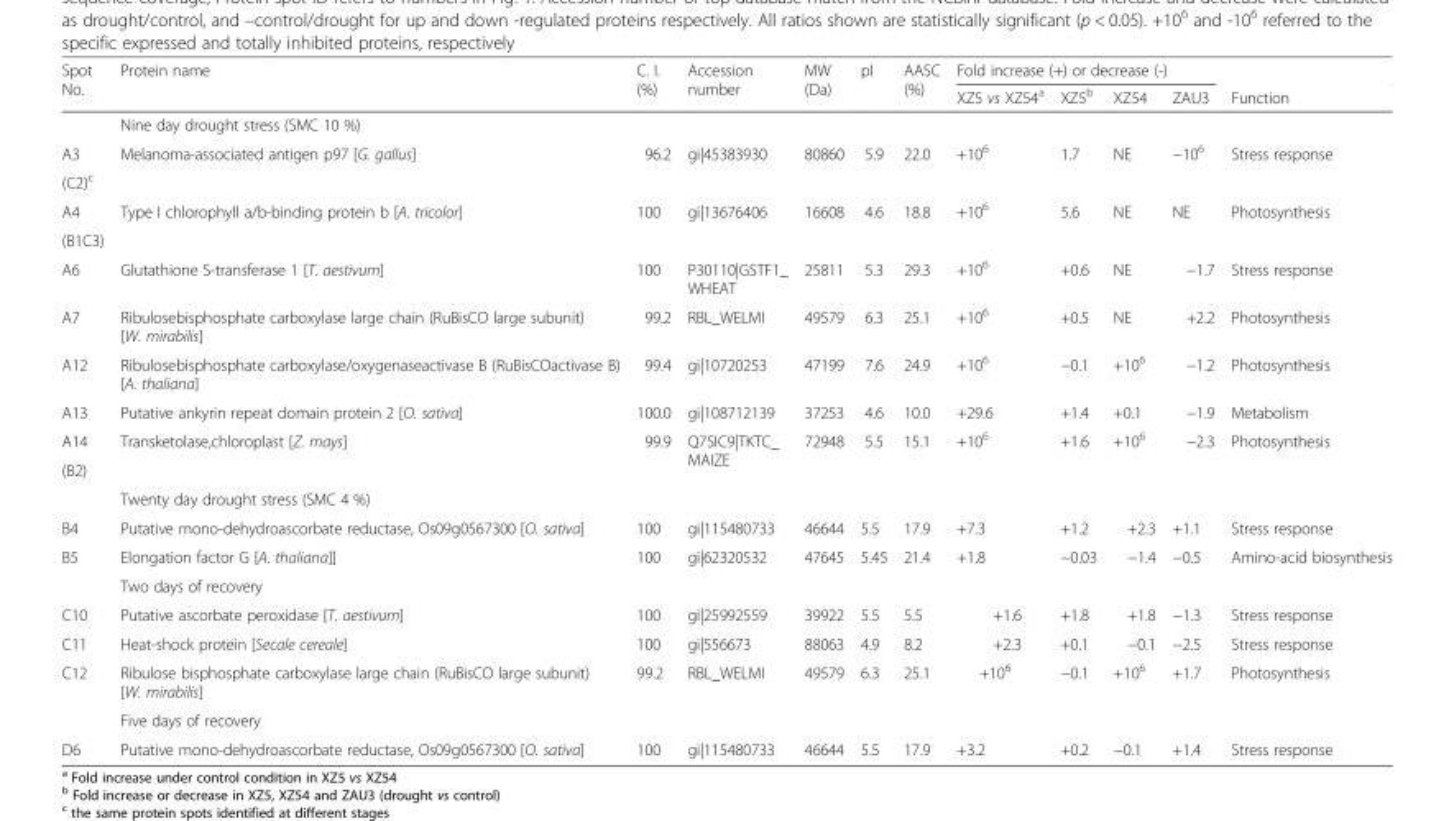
<table><thead><tr><td rowspan="2">Spot No.</td><td rowspan="2">Protein name</td><td rowspan="2">C. I. (%)</td><td rowspan="2">Accession number</td><td rowspan="2">MW (Da)</td><td rowspan="2">pI</td><td rowspan="2">AASC (%)</td><td colspan="5">Fold increase (+) or decrease (-)</td></tr><tr><td>XZ5 vs XZ54<sup>a</sup></td><td>XZ5<sup>b</sup></td><td>XZ54</td><td>ZAU3</td><td>Function</td></tr></thead><tbody><tr><td></td><td>Nine day drought stress (SMC 10 %)</td><td></td><td></td><td></td><td></td><td></td><td></td><td></td><td></td><td></td><td></td></tr><tr><td>A3</td><td rowspan="2">Melanoma-associated antigen p97 [G. gallus]</td><td rowspan="2">96.2</td><td rowspan="2">gi|45383930</td><td rowspan="2">80860</td><td rowspan="2">5.9</td><td rowspan="2">22.0</td><td rowspan="2">+10<sup>6</sup></td><td rowspan="2">1.7</td><td rowspan="2">NE</td><td rowspan="2">−10<sup>6</sup></td><td rowspan="2">Stress response</td></tr><tr><td>(C2)<sup>c</sup></td></tr><tr><td>A4</td><td rowspan="2">Type I chlorophyll a/b-binding protein b [A. tricolor]</td><td rowspan="2">100</td><td rowspan="2">gi|13676406</td><td rowspan="2">16608</td><td rowspan="2">4.6</td><td rowspan="2">18.8</td><td rowspan="2">+10<sup>6</sup></td><td rowspan="2">5.6</td><td rowspan="2">NE</td><td rowspan="2">NE</td><td rowspan="2">Photosynthesis</td></tr><tr><td>(B1C3)</td></tr><tr><td>A6</td><td>Glutathione S-transferase 1 [T. aestivum]</td><td>100</td><td>P30110|GSTF1_ WHEAT</td><td>25811</td><td>5.3</td><td>29.3</td><td>+10<sup>6</sup></td><td>+0.6</td><td>NE</td><td>−1.7</td><td>Stress response</td></tr><tr><td>A7</td><td>Ribulosebisphosphate carboxylase large chain (RuBisCO large subunit) [W. mirabilis]</td><td>99.2</td><td>RBL_WELMI</td><td>49579</td><td>6.3</td><td>25.1</td><td>+10<sup>6</sup></td><td>+0.5</td><td>NE</td><td>+2.2</td><td>Photosynthesis</td></tr><tr><td>A12</td><td>Ribulosebisphosphate carboxylase/oxygenaseactivase B (RuBisCOactivase B) [A. thaliana]</td><td>99.4</td><td>gi|10720253</td><td>47199</td><td>7.6</td><td>24.9</td><td>+10<sup>6</sup></td><td>−0.1</td><td>+10<sup>6</sup></td><td>−1.2</td><td>Photosynthesis</td></tr><tr><td>A13</td><td>Putative ankyrin repeat domain protein 2 [O. sativa]</td><td>100.0</td><td>gi|108712139</td><td>37253</td><td>4.6</td><td>10.0</td><td>+29.6</td><td>+1.4</td><td>+0.1</td><td>−1.9</td><td>Metabolism</td></tr><tr><td>A14</td><td rowspan="2">Transketolase,chloroplast [Z. mays]</td><td rowspan="2">99.9</td><td rowspan="2">Q7SIC9|TKTC_ MAIZE</td><td rowspan="2">72948</td><td rowspan="2">5.5</td><td rowspan="2">15.1</td><td rowspan="2">+10<sup>6</sup></td><td rowspan="2">+1.6</td><td rowspan="2">+10<sup>6</sup></td><td rowspan="2">−2.3</td><td rowspan="2">Photosynthesis</td></tr><tr><td rowspan="2">(B2)</td></tr><tr><td>Twenty day drought stress (SMC 4 %)</td><td></td><td></td><td></td><td></td><td></td><td></td><td></td><td></td><td></td><td></td></tr><tr><td>B4</td><td>Putative mono-dehydroascorbate reductase, Os09g0567300 [O. sativa]</td><td>100</td><td>gi|115480733</td><td>46644</td><td>5.5</td><td>17.9</td><td>+7.3</td><td>+1.2</td><td>+2.3</td><td>+1.1</td><td>Stress response</td></tr><tr><td rowspan="2">B5</td><td>Elongation factor G [A. thaliana]]</td><td>100</td><td>gi|62320532</td><td>47645</td><td>5.45</td><td>21.4</td><td>+1.8</td><td>−0.03</td><td>−1.4</td><td>−0.5</td><td>Amino-acid biosynthesis</td></tr><tr><td>Two days of recovery</td><td></td><td></td><td></td><td></td><td></td><td></td><td></td><td></td><td></td><td></td></tr><tr><td>C10</td><td>Putative ascorbate peroxidase [T. aestivum]</td><td>100</td><td>gi|25992559</td><td>39922</td><td>5.5</td><td>5.5</td><td>+1.6</td><td>+1.8</td><td>+1.8</td><td>−1.3</td><td>Stress response</td></tr><tr><td>C11</td><td>Heat-shock protein [Secale cereale]</td><td>100</td><td>gi|556673</td><td>88063</td><td>4.9</td><td>8.2</td><td>+2.3</td><td>+0.1</td><td>−0.1</td><td>−2.5</td><td>Stress response</td></tr><tr><td rowspan="2">C12</td><td>Ribulose bisphosphate carboxylase large chain (RuBisCO large subunit) [W. mirabilis]</td><td>99.2</td><td>RBL_WELMI</td><td>49579</td><td>6.3</td><td>25.1</td><td>+10<sup>6</sup></td><td>−0.1</td><td>+10<sup>6</sup></td><td>+1.7</td><td>Photosynthesis</td></tr><tr><td>Five days of recovery</td><td></td><td></td><td></td><td></td><td></td><td></td><td></td><td></td><td></td><td></td></tr><tr><td>D6</td><td>Putative mono-dehydroascorbate reductase, Os09g0567300 [O. sativa]</td><td>100</td><td>gi|115480733</td><td>46644</td><td>5.5</td><td>17.9</td><td>+3.2</td><td>+0.2</td><td>−0.1</td><td>+1.4</td><td>Stress response</td></tr></tbody></table>